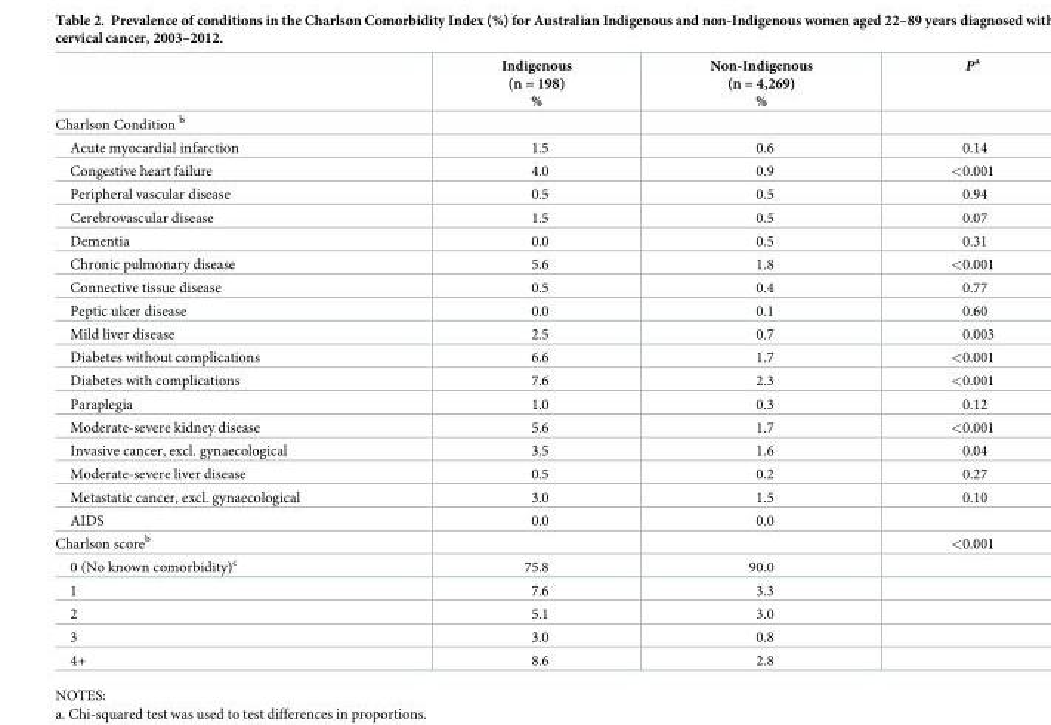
<table><thead><tr><td></td><td>Indigenous (n = 198) %</td><td>Non-Indigenous (n = 4,269) %</td><td>P<sup>a</sup></td></tr></thead><tbody><tr><td colspan="4">Charlson Condition <sup>b</sup></td></tr><tr><td>Acute myocardial infarction</td><td>1.5</td><td>0.6</td><td>0.14</td></tr><tr><td>Congestive heart failure</td><td>4.0</td><td>0.9</td><td>&lt;0.001</td></tr><tr><td>Peripheral vascular disease</td><td>0.5</td><td>0.5</td><td>0.94</td></tr><tr><td>Cerebrovascular disease</td><td>1.5</td><td>0.5</td><td>0.07</td></tr><tr><td>Dementia</td><td>0.0</td><td>0.5</td><td>0.31</td></tr><tr><td>Chronic pulmonary disease</td><td>5.6</td><td>1.8</td><td>&lt;0.001</td></tr><tr><td>Connective tissue disease</td><td>0.5</td><td>0.4</td><td>0.77</td></tr><tr><td>Peptic ulcer disease</td><td>0.0</td><td>0.1</td><td>0.60</td></tr><tr><td>Mild liver disease</td><td>2.5</td><td>0.7</td><td>0.003</td></tr><tr><td>Diabetes without complications</td><td>6.6</td><td>1.7</td><td>&lt;0.001</td></tr><tr><td>Diabetes with complications</td><td>7.6</td><td>2.3</td><td>&lt;0.001</td></tr><tr><td>Paraplegia</td><td>1.0</td><td>0.3</td><td>0.12</td></tr><tr><td>Moderate-severe kidney disease</td><td>5.6</td><td>1.7</td><td>&lt;0.001</td></tr><tr><td>Invasive cancer, excl. gynaecological</td><td>3.5</td><td>1.6</td><td>0.04</td></tr><tr><td>Moderate-severe liver disease</td><td>0.5</td><td>0.2</td><td>0.27</td></tr><tr><td>Metastatic cancer, excl. gynaecological</td><td>3.0</td><td>1.5</td><td>0.10</td></tr><tr><td>AIDS</td><td>0.0</td><td>0.0</td><td></td></tr><tr><td>Charlson score<sup>b</sup></td><td></td><td></td><td>&lt;0.001</td></tr><tr><td>0 (No known comorbidity)<sup>c</sup></td><td>75.8</td><td>90.0</td><td></td></tr><tr><td>1</td><td>7.6</td><td>3.3</td><td></td></tr><tr><td>2</td><td>5.1</td><td>3.0</td><td></td></tr><tr><td>3</td><td>3.0</td><td>0.8</td><td></td></tr><tr><td>4+</td><td>8.6</td><td>2.8</td><td></td></tr></tbody></table>